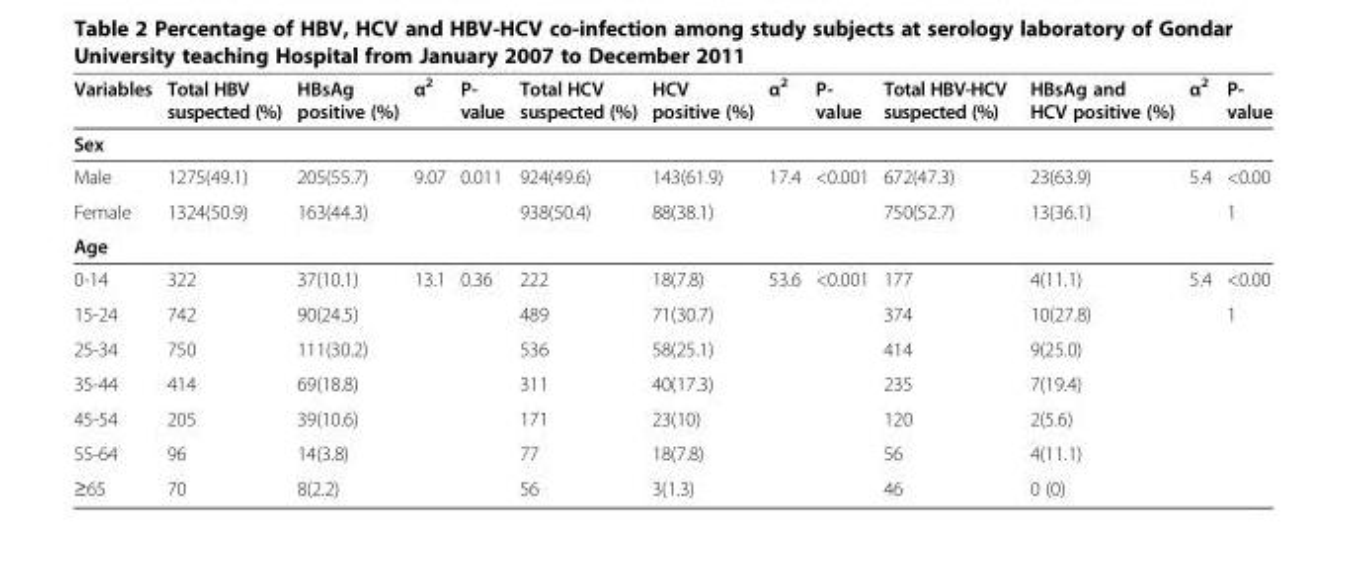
<table><thead><tr><td>Variables</td><td>Total HBV suspected (%)</td><td>HBsAg positive (%)</td><td>α<sup>2</sup></td><td>P- value</td><td>Total HCV suspected (%)</td><td>HCV positive (%)</td><td>α<sup>2</sup></td><td>P- value</td><td>Total HBV-HCV suspected (%)</td><td>HBsAg and HCV positive (%)</td><td>α<sup>2</sup></td><td>P- value</td></tr></thead><tbody><tr><td colspan="13">Sex</td></tr><tr><td>Male</td><td>1275(49.1)</td><td>205(55.7)</td><td>9.07</td><td>0.011</td><td>924(49.6)</td><td>143(61.9)</td><td>17.4</td><td>&lt;0.001</td><td>672(47.3)</td><td>23(63.9)</td><td>5.4</td><td>&lt;0.00</td></tr><tr><td>Female</td><td>1324(50.9)</td><td>163(44.3)</td><td></td><td></td><td>938(50.4)</td><td>88(38.1)</td><td></td><td></td><td>750(52.7)</td><td>13(36.1)</td><td></td><td>1</td></tr><tr><td colspan="13">Age</td></tr><tr><td>0-14</td><td>322</td><td>37(10.1)</td><td>13.1</td><td>0.36</td><td>222</td><td>18(7.8)</td><td>53.6</td><td>&lt;0.001</td><td>177</td><td>4(11.1)</td><td>5.4</td><td>&lt;0.00</td></tr><tr><td>15-24</td><td>742</td><td>90(24.5)</td><td></td><td></td><td>489</td><td>71(30.7)</td><td></td><td></td><td>374</td><td>10(27.8)</td><td></td><td>1</td></tr><tr><td>25-34</td><td>750</td><td>111(30.2)</td><td></td><td></td><td>536</td><td>58(25.1)</td><td></td><td></td><td>414</td><td>9(25.0)</td><td></td><td></td></tr><tr><td>35-44</td><td>414</td><td>69(18.8)</td><td></td><td></td><td>311</td><td>40(17.3)</td><td></td><td></td><td>235</td><td>7(19.4)</td><td></td><td></td></tr><tr><td>45-54</td><td>205</td><td>39(10.6)</td><td></td><td></td><td>171</td><td>23(10)</td><td></td><td></td><td>120</td><td>2(5.6)</td><td></td><td></td></tr><tr><td>55-64</td><td>96</td><td>14(3.8)</td><td></td><td></td><td>77</td><td>18(7.8)</td><td></td><td></td><td>56</td><td>4(11.1)</td><td></td><td></td></tr><tr><td>≥65</td><td>70</td><td>8(2.2)</td><td></td><td></td><td>56</td><td>3(1.3)</td><td></td><td></td><td>46</td><td>0 (0)</td><td></td><td></td></tr></tbody></table>